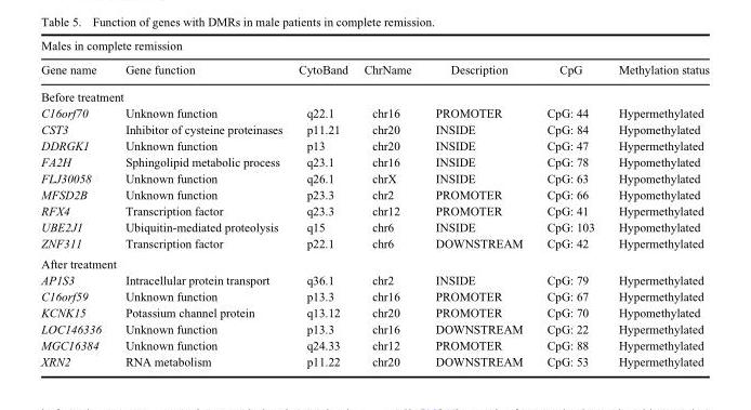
<table><tbody><tr><td colspan="7">Males in complete remission</td></tr><tr><td>Gene name</td><td>Gene function</td><td>CytoBand</td><td>ChrName</td><td>Description</td><td>CpG</td><td>Methylation status</td></tr><tr><td colspan="7">Before treatment</td></tr><tr><td>C16orf70</td><td>Unknown function</td><td>q22.1</td><td>chr16</td><td>PROMOTER</td><td>CpG: 44</td><td>Hypermethylated</td></tr><tr><td>CST3</td><td>Inhibitor of cysteine proteinases</td><td>p11.21</td><td>chr20</td><td>INSIDE</td><td>CpG: 84</td><td>Hypomethylated</td></tr><tr><td>DDRGK1</td><td>Unknown function</td><td>p13</td><td>chr20</td><td>INSIDE</td><td>CpG: 47</td><td>Hypermethylated</td></tr><tr><td>FA2H</td><td>Sphingolipid metabolic process</td><td>q23.1</td><td>chr16</td><td>INSIDE</td><td>CpG: 78</td><td>Hypomethylated</td></tr><tr><td>FLJ30058</td><td>Unknown function</td><td>q26.1</td><td>chrX</td><td>INSIDE</td><td>CpG: 63</td><td>Hypomethylated</td></tr><tr><td>MFSD2B</td><td>Unknown function</td><td>p23.3</td><td>chr2</td><td>PROMOTER</td><td>CpG: 66</td><td>Hypomethylated</td></tr><tr><td>RFX4</td><td>Transcription factor</td><td>q23.3</td><td>chr12</td><td>PROMOTER</td><td>CpG: 41</td><td>Hypermethylated</td></tr><tr><td>UBE2J1</td><td>Ubiquitin-mediated proteolysis</td><td>q15</td><td>chr6</td><td>INSIDE</td><td>CpG: 103</td><td>Hypomethylated</td></tr><tr><td>ZNF311</td><td>Transcription factor</td><td>p22.1</td><td>chr6</td><td>DOWNSTREAM</td><td>CpG: 42</td><td>Hypermethylated</td></tr><tr><td colspan="7">After treatment</td></tr><tr><td>AP1S3</td><td>Intracellular protein transport</td><td>q36.1</td><td>chr2</td><td>INSIDE</td><td>CpG: 79</td><td>Hypermethylated</td></tr><tr><td>C16orf59</td><td>Unknown function</td><td>p13.3</td><td>chr16</td><td>PROMOTER</td><td>CpG: 67</td><td>Hypermethylated</td></tr><tr><td>KCNK15</td><td>Potassium channel protein</td><td>q13.12</td><td>chr20</td><td>PROMOTER</td><td>CpG: 70</td><td>Hypomethylated</td></tr><tr><td>LOC146336</td><td>Unknown function</td><td>p13.3</td><td>chr16</td><td>DOWNSTREAM</td><td>CpG: 22</td><td>Hypermethylated</td></tr><tr><td>MGC16384</td><td>Unknown function</td><td>q24.33</td><td>chr12</td><td>PROMOTER</td><td>CpG: 88</td><td>Hypermethylated</td></tr><tr><td>XRN2</td><td>RNA metabolism</td><td>p11.22</td><td>chr20</td><td>DOWNSTREAM</td><td>CpG: 53</td><td>Hypermethylated</td></tr></tbody></table>